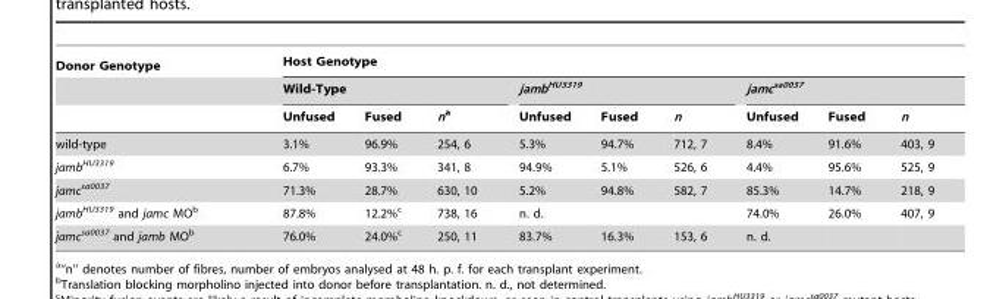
<table><thead><tr><td rowspan="3">Donor Genotype</td><td colspan="9">Host Genotype</td></tr><tr><td colspan="3">Wild-Type</td><td colspan="3">jamb<sup>HU3319</sup></td><td colspan="3">jamc<sup>sa0037</sup></td></tr><tr><td>Unfused</td><td>Fused</td><td>na</td><td>Unfused</td><td>Fused</td><td>n</td><td>Unfused</td><td>Fused</td><td>n</td></tr></thead><tbody><tr><td>wild-type</td><td>3.1%</td><td>96.9%</td><td>254, 6</td><td>5.3%</td><td>94.7%</td><td>712, 7</td><td>8.4%</td><td>91.6%</td><td>403, 9</td></tr><tr><td>jamb<sup>HU3319</sup></td><td>6.7%</td><td>93.3%</td><td>341, 8</td><td>94.9%</td><td>5.1%</td><td>526, 6</td><td>4.4%</td><td>95.6%</td><td>525, 9</td></tr><tr><td>jamc<sup>sa0037</sup></td><td>71.3%</td><td>28.7%</td><td>630, 10</td><td>5.2%</td><td>94.8%</td><td>582, 7</td><td>85.3%</td><td>14.7%</td><td>218, 9</td></tr><tr><td>jamb<sup>HU3319</sup> and jamc MO<sup>b</sup></td><td>87.8%</td><td>12.2%<sup>c</sup></td><td>738, 16</td><td colspan="3">n. d.</td><td>74.0%</td><td>26.0%</td><td>407, 9</td></tr><tr><td>jamc<sup>sa0037</sup> and jamb MO<sup>b</sup></td><td>76.0%</td><td>24.0%<sup>c</sup></td><td>250, 11</td><td>83.7%</td><td>16.3%</td><td>153, 6</td><td>n. d.</td><td></td><td></td></tr></tbody></table>